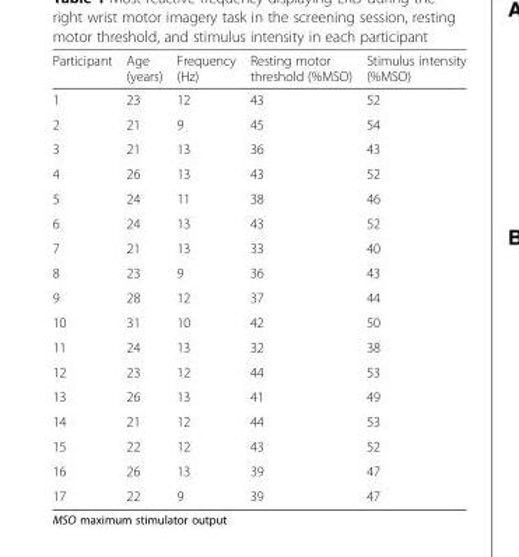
<table><thead><tr><td>Participant</td><td>Age (years)</td><td>Frequency (Hz)</td><td>Resting motor threshold (%MSO)</td><td>Stimulus intensity (%MSO)</td></tr></thead><tbody><tr><td>1</td><td>23</td><td>12</td><td>43</td><td>52</td></tr><tr><td>2</td><td>21</td><td>9</td><td>45</td><td>54</td></tr><tr><td>3</td><td>21</td><td>13</td><td>36</td><td>43</td></tr><tr><td>4</td><td>26</td><td>13</td><td>43</td><td>52</td></tr><tr><td>5</td><td>24</td><td>11</td><td>38</td><td>46</td></tr><tr><td>6</td><td>24</td><td>13</td><td>43</td><td>52</td></tr><tr><td>7</td><td>21</td><td>13</td><td>33</td><td>40</td></tr><tr><td>8</td><td>23</td><td>9</td><td>36</td><td>43</td></tr><tr><td>9</td><td>28</td><td>12</td><td>37</td><td>44</td></tr><tr><td>10</td><td>31</td><td>10</td><td>42</td><td>50</td></tr><tr><td>11</td><td>24</td><td>13</td><td>32</td><td>38</td></tr><tr><td>12</td><td>23</td><td>12</td><td>44</td><td>53</td></tr><tr><td>13</td><td>26</td><td>13</td><td>41</td><td>49</td></tr><tr><td>14</td><td>21</td><td>12</td><td>44</td><td>53</td></tr><tr><td>15</td><td>22</td><td>12</td><td>43</td><td>52</td></tr><tr><td>16</td><td>26</td><td>13</td><td>39</td><td>47</td></tr><tr><td>17</td><td>22</td><td>9</td><td>39</td><td>47</td></tr></tbody></table>